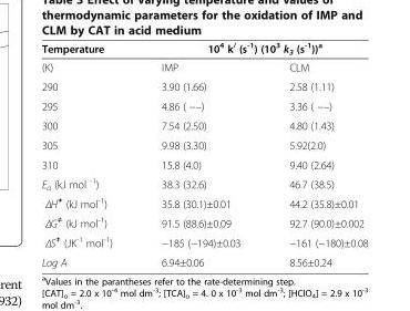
<table><thead><tr><td rowspan="2">Temperature (K)</td><td colspan="2">10<sup>4</sup> k<sup>/</sup> (s<sup>-1</sup>) (10<sup>3</sup> k<sub>3</sub> (s<sup>-1</sup>))<sup>a</sup></td></tr><tr><td>IMP</td><td>CLM</td></tr></thead><tbody><tr><td>290</td><td>3.90 (1.66)</td><td>2.58 (1.11)</td></tr><tr><td>295</td><td>4.86 ( −–)</td><td>3.36 ( −–)</td></tr><tr><td>300</td><td>7.54 (2.50)</td><td>4.80 (1.43)</td></tr><tr><td>305</td><td>9.98 (3.30)</td><td>5.92(2.0)</td></tr><tr><td>310</td><td>15.8 (4.0)</td><td>9.40 (2.64)</td></tr><tr><td>E<sub>a</sub> (kJ mol <sup>-1</sup>)</td><td>38.3 (32.6)</td><td>46.7 (38.5)</td></tr><tr><td>ΔH≠ (kJ mol-1)</td><td>35.8 (30.1)±0.01</td><td>44.2 (35.8)±0.01</td></tr><tr><td>ΔG≠ (kJ mol-1)</td><td>91.5 (88.6)±0.09</td><td>92.7 (90.0)±0.002</td></tr><tr><td>ΔS≠ (JK-1 mol-1)</td><td>−185 (−194)±0.03</td><td>−161 (−180)±0.08</td></tr><tr><td>Log A</td><td>6.94±0.06</td><td>8.56±0.24</td></tr></tbody></table>